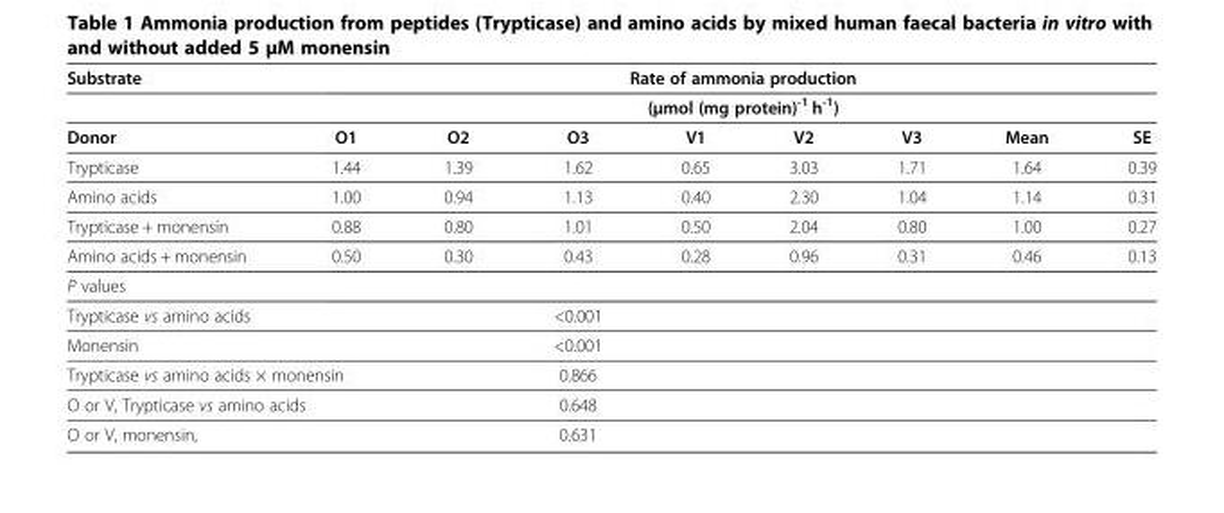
<table><thead><tr><td rowspan="3">Substrate Donor</td><td rowspan="2" colspan="8">Rate of ammonia production (μmol (mg protein)<sup>-1</sup> h<sup>-1</sup>)</td></tr><tr></tr><tr><td>O1</td><td>O2</td><td>O3</td><td>V1</td><td>V2</td><td>V3</td><td>Mean</td><td>SE</td></tr></thead><tbody><tr><td>Trypticase</td><td>1.44</td><td>1.39</td><td>1.62</td><td>0.65</td><td>3.03</td><td>1.71</td><td>1.64</td><td>0.39</td></tr><tr><td>Amino acids</td><td>1.00</td><td>0.94</td><td>1.13</td><td>0.40</td><td>2.30</td><td>1.04</td><td>1.14</td><td>0.31</td></tr><tr><td>Trypticase + monensin</td><td>0.88</td><td>0.80</td><td>1.01</td><td>0.50</td><td>2.04</td><td>0.80</td><td>1.00</td><td>0.27</td></tr><tr><td>Amino acids + monensin</td><td>0.50</td><td>0.30</td><td>0.43</td><td>0.28</td><td>0.96</td><td>0.31</td><td>0.46</td><td>0.13</td></tr><tr><td colspan="9">P values</td></tr><tr><td colspan="3">Trypticase vs amino acids</td><td>&lt;0.001</td><td></td><td></td><td></td><td></td><td></td></tr><tr><td>Monensin</td><td></td><td></td><td>&lt;0.001</td><td></td><td></td><td></td><td></td><td></td></tr><tr><td colspan="3">Trypticase vs amino acids × monensin</td><td>0.866</td><td></td><td></td><td></td><td></td><td></td></tr><tr><td colspan="3">O or V, Trypticase vs amino acids</td><td>0.648</td><td></td><td></td><td></td><td></td><td></td></tr><tr><td colspan="3">O or V, monensin,</td><td>0.631</td><td></td><td></td><td></td><td></td><td></td></tr></tbody></table>